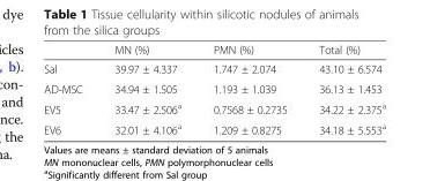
<table><thead><tr><td></td><td>MN (%)</td><td>PMN (%)</td><td>Total (%)</td></tr></thead><tbody><tr><td>Sal</td><td>39.97 ± 4.337</td><td>1.747 ± 2.074</td><td>43.10 ± 6.574</td></tr><tr><td>AD-MSC</td><td>34.94 ± 1.505</td><td>1.193 ± 1.039</td><td>36.13 ± 1.453</td></tr><tr><td>EV5</td><td>33.47 ± 2.506<sup>a</sup></td><td>0.7568 ± 0.2735</td><td>34.22 ± 2.375<sup>a</sup></td></tr><tr><td>EV6</td><td>32.01 ± 4.106<sup>a</sup></td><td>1.209 ± 0.8275</td><td>34.18 ± 5.553<sup>a</sup></td></tr></tbody></table>